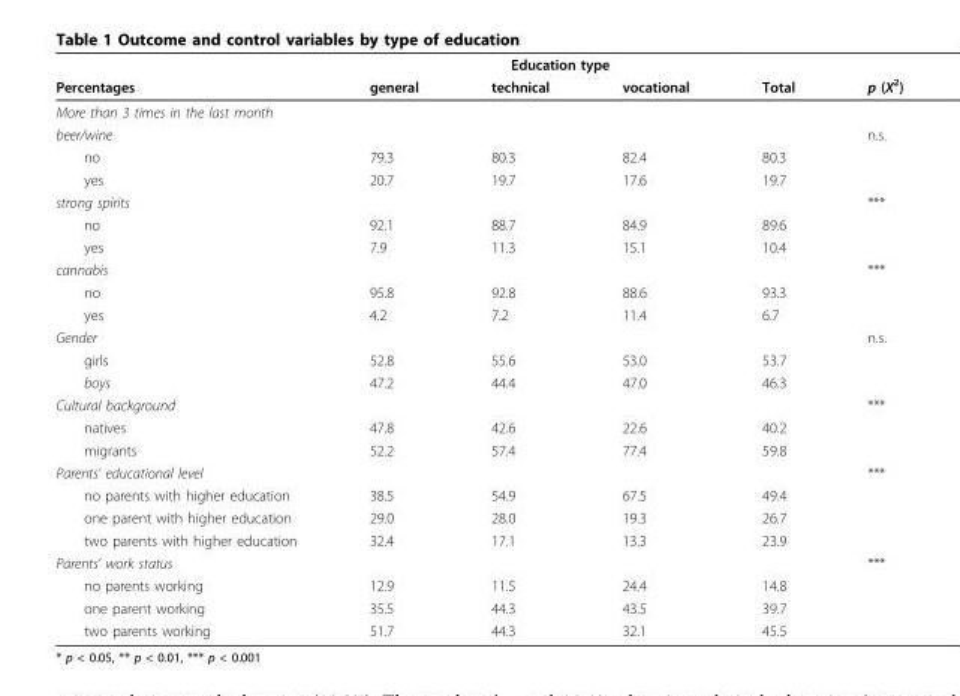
<table><thead><tr><td rowspan="2">Percentages</td><td colspan="3">Education type</td><td rowspan="2">Total</td><td rowspan="2">p (X<sup>2</sup>)</td></tr><tr><td>general</td><td>technical</td><td>vocational</td></tr></thead><tbody><tr><td colspan="6">More than 3 times in the last month</td></tr><tr><td>beer/wine</td><td></td><td></td><td></td><td></td><td>n.s.</td></tr><tr><td>no</td><td>79.3</td><td>80.3</td><td>82.4</td><td>80.3</td><td></td></tr><tr><td>yes</td><td>20.7</td><td>19.7</td><td>17.6</td><td>19.7</td><td></td></tr><tr><td>strong spirits</td><td></td><td></td><td></td><td></td><td>***</td></tr><tr><td>no</td><td>92.1</td><td>88.7</td><td>84.9</td><td>89.6</td><td></td></tr><tr><td>yes</td><td>7.9</td><td>11.3</td><td>15.1</td><td>10.4</td><td></td></tr><tr><td>cannabis</td><td></td><td></td><td></td><td></td><td>***</td></tr><tr><td>no</td><td>95.8</td><td>92.8</td><td>88.6</td><td>93.3</td><td></td></tr><tr><td>yes</td><td>4.2</td><td>7.2</td><td>11.4</td><td>6.7</td><td></td></tr><tr><td>Gender</td><td></td><td></td><td></td><td></td><td>n.s.</td></tr><tr><td>girls</td><td>52.8</td><td>55.6</td><td>53.0</td><td>53.7</td><td></td></tr><tr><td>boys</td><td>47.2</td><td>44.4</td><td>47.0</td><td>46.3</td><td></td></tr><tr><td>Cultural background</td><td></td><td></td><td></td><td></td><td>***</td></tr><tr><td>natives</td><td>47.8</td><td>42.6</td><td>22.6</td><td>40.2</td><td></td></tr><tr><td>migrants</td><td>52.2</td><td>57.4</td><td>77.4</td><td>59.8</td><td></td></tr><tr><td>Parents’ educational level</td><td></td><td></td><td></td><td></td><td>***</td></tr><tr><td>no parents with higher education</td><td>38.5</td><td>54.9</td><td>67.5</td><td>49.4</td><td></td></tr><tr><td>one parent with higher education</td><td>29.0</td><td>28.0</td><td>19.3</td><td>26.7</td><td></td></tr><tr><td>two parents with higher education</td><td>32.4</td><td>17.1</td><td>13.3</td><td>23.9</td><td></td></tr><tr><td>Parents’ work status</td><td></td><td></td><td></td><td></td><td>***</td></tr><tr><td>no parents working</td><td>12.9</td><td>11.5</td><td>24.4</td><td>14.8</td><td></td></tr><tr><td>one parent working</td><td>35.5</td><td>44.3</td><td>43.5</td><td>39.7</td><td></td></tr><tr><td>two parents working</td><td>51.7</td><td>44.3</td><td>32.1</td><td>45.5</td><td></td></tr></tbody></table>